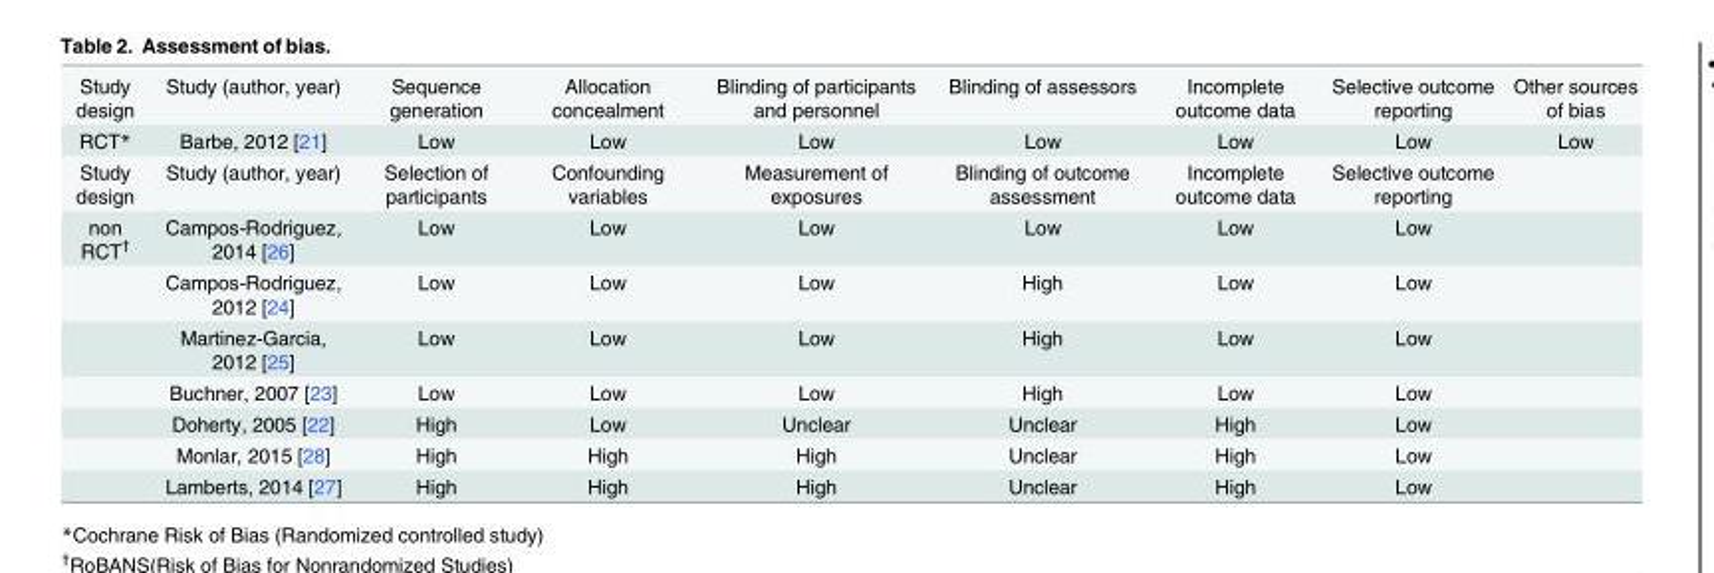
<table><tbody><tr><td>Study design</td><td>Study (author, year)</td><td>Sequence generation</td><td>Allocation concealment</td><td>Blinding of participants and personnel</td><td>Blinding of assessors</td><td>Incomplete outcome data</td><td>Selective outcome reporting</td><td>Other sources of bias</td></tr><tr><td>RCT*</td><td>Barbe, 2012 [21]</td><td>Low</td><td>Low</td><td>Low</td><td>Low</td><td>Low</td><td>Low</td><td>Low</td></tr><tr><td>Study design</td><td>Study (author, year)</td><td>Selection of participants</td><td>Confounding variables</td><td>Measurement of exposures</td><td>Blinding of outcome assessment</td><td>Incomplete outcome data</td><td>Selective outcome reporting</td><td></td></tr><tr><td rowspan="7">non RCT<sup>†</sup></td><td>Campos-Rodriguez, 2014 [26]</td><td>Low</td><td>Low</td><td>Low</td><td>Low</td><td>Low</td><td>Low</td><td></td></tr><tr><td>Campos-Rodriguez, 2012 [24]</td><td>Low</td><td>Low</td><td>Low</td><td>High</td><td>Low</td><td>Low</td><td></td></tr><tr><td>Martinez-Garcia, 2012 [25]</td><td>Low</td><td>Low</td><td>Low</td><td>High</td><td>Low</td><td>Low</td><td></td></tr><tr><td>Buchner, 2007 [23]</td><td>Low</td><td>Low</td><td>Low</td><td>High</td><td>Low</td><td>Low</td><td></td></tr><tr><td>Doherty, 2005 [22]</td><td>High</td><td>Low</td><td>Unclear</td><td>Unclear</td><td>High</td><td>Low</td><td></td></tr><tr><td>Monlar, 2015 [28]</td><td>High</td><td>High</td><td>High</td><td>Unclear</td><td>High</td><td>Low</td><td></td></tr><tr><td>Lamberts, 2014 [27]</td><td>High</td><td>High</td><td>High</td><td>Unclear</td><td>High</td><td>Low</td><td></td></tr></tbody></table>